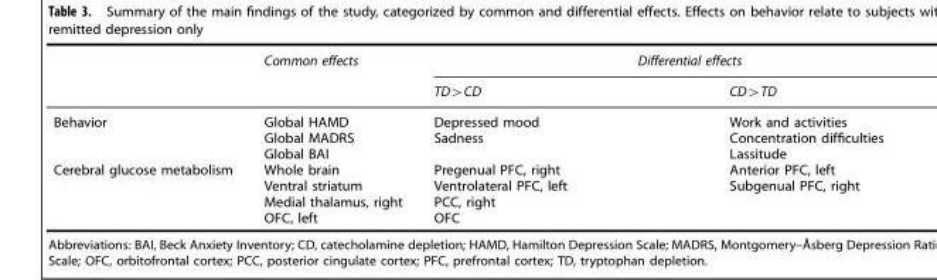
<table><thead><tr><td rowspan="2"></td><td rowspan="2">Common effects</td><td colspan="2">Differential effects</td></tr><tr><td>TD&gt;CD</td><td>CD&gt;TD</td></tr></thead><tbody><tr><td>Behavior</td><td>Global HAMD Global MADRS Global BAI</td><td>Depressed mood Sadness</td><td>Work and activities Concentration difficulties Lassitude</td></tr><tr><td>Cerebral glucose metabolism</td><td>Whole brain Ventral striatum Medial thalamus, right OFC, left</td><td>Pregenual PFC, right Ventrolateral PFC, left PCC, right OFC</td><td>Anterior PFC, left Subgenual PFC, right</td></tr></tbody></table>